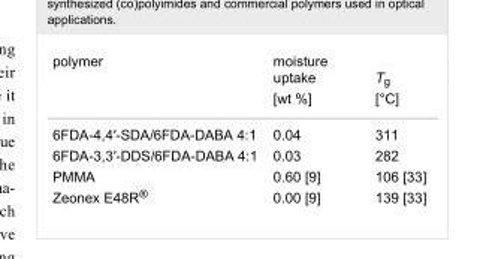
<table><tbody><tr><td rowspan="2">polymer</td><td>moisture uptake</td><td>T<sub>g</sub></td></tr><tr><td>[wt %]</td><td>[°C]</td></tr><tr><td>6FDA-4,4′-SDA/6FDA-DABA 4:1</td><td>0.04</td><td>311</td></tr><tr><td>6FDA-3,3′-DDS/6FDA-DABA 4:1</td><td>0.03</td><td>282</td></tr><tr><td>PMMA</td><td>0.60 [9]</td><td>106 [33]</td></tr><tr><td>Zeonex E48R<sup>®</sup></td><td>0.00 [9]</td><td>139 [33]</td></tr></tbody></table>